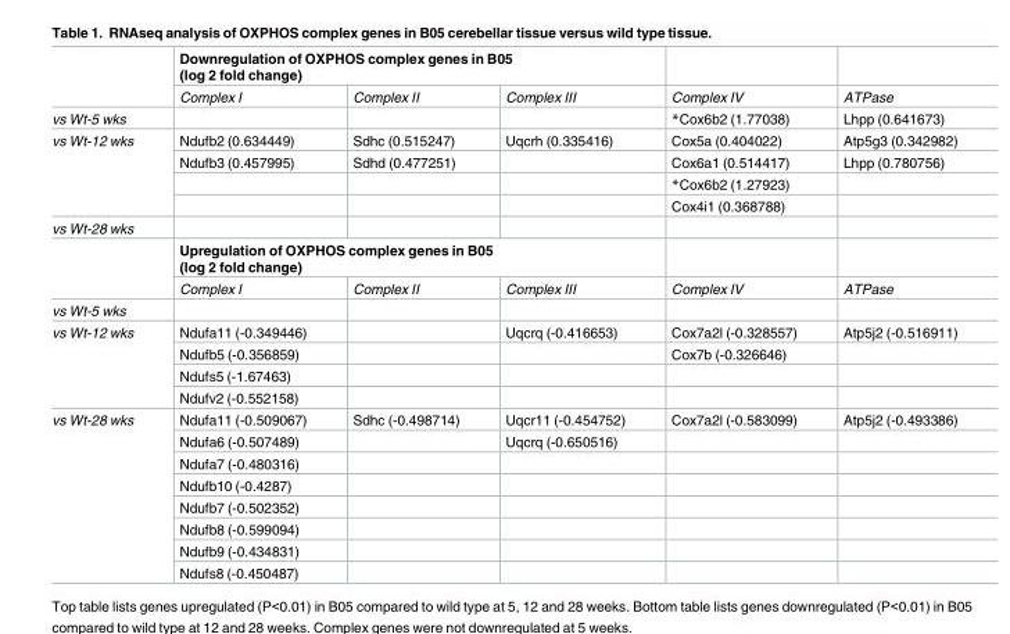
<table><thead><tr><td rowspan="2"></td><td colspan="3">Downregulation of OXPHOS complex genes in B05 (log 2 fold change)</td><td rowspan="2">Complex IV</td><td rowspan="2">ATPase</td></tr><tr><td>Complex I</td><td>Complex II</td><td>Complex III</td></tr></thead><tbody><tr><td>vs Wt-5 wks</td><td></td><td></td><td></td><td>*Cox6b2 (1.77038)</td><td>Lhpp (0.641673)</td></tr><tr><td rowspan="4">vs Wt-12 wks</td><td>Ndufb2 (0.634449)</td><td>Sdhc (0.515247)</td><td>Uqcrh (0.335416)</td><td>Cox5a (0.404022)</td><td>Atp5g3 (0.342982)</td></tr><tr><td>Ndufb3 (0.457995)</td><td>Sdhd (0.477251)</td><td></td><td>Cox6a1 (0.514417)</td><td>Lhpp (0.780756)</td></tr><tr><td></td><td></td><td></td><td>*Cox6b2 (1.27923)</td><td></td></tr><tr><td></td><td></td><td></td><td>Cox4i1 (0.368788)</td><td></td></tr><tr><td colspan="6">vs Wt-28 wks</td></tr><tr><td rowspan="2"></td><td colspan="3">Upregulation of OXPHOS complex genes in B05 (log 2 fold change)</td><td></td><td></td></tr><tr><td>Complex I</td><td>Complex II</td><td>Complex III</td><td>Complex IV</td><td>ATPase</td></tr><tr><td colspan="6">vs Wt-5 wks</td></tr><tr><td rowspan="4">vs Wt-12 wks</td><td>Ndufa11 (-0.349446)</td><td></td><td>Uqcrq (-0.416653)</td><td>Cox7a2l (-0.328557)</td><td>Atp5j2 (-0.516911)</td></tr><tr><td>Ndufb5 (-0.356859)</td><td></td><td></td><td>Cox7b (-0.326646)</td><td></td></tr><tr><td>Ndufs5 (-1.67463)</td><td></td><td></td><td></td><td></td></tr><tr><td>Ndufv2 (-0.552158)</td><td></td><td></td><td></td><td></td></tr><tr><td rowspan="8">vs Wt-28 wks</td><td>Ndufa11 (-0.509067)</td><td>Sdhc (-0.498714)</td><td>Uqcr11 (-0.454752)</td><td>Cox7a2l (-0.583099)</td><td>Atp5j2 (-0.493386)</td></tr><tr><td>Ndufa6 (-0.507489)</td><td></td><td>Uqcrq (-0.650516)</td><td></td><td></td></tr><tr><td>Ndufa7 (-0.480316)</td><td></td><td></td><td></td><td></td></tr><tr><td>Ndufb10 (-0.4287)</td><td></td><td></td><td></td><td></td></tr><tr><td>Ndufb7 (-0.502352)</td><td></td><td></td><td></td><td></td></tr><tr><td>Ndufb8 (-0.599094)</td><td></td><td></td><td></td><td></td></tr><tr><td>Ndufb9 (-0.434831)</td><td></td><td></td><td></td><td></td></tr><tr><td>Ndufs8 (-0.450487)</td><td></td><td></td><td></td><td></td></tr></tbody></table>